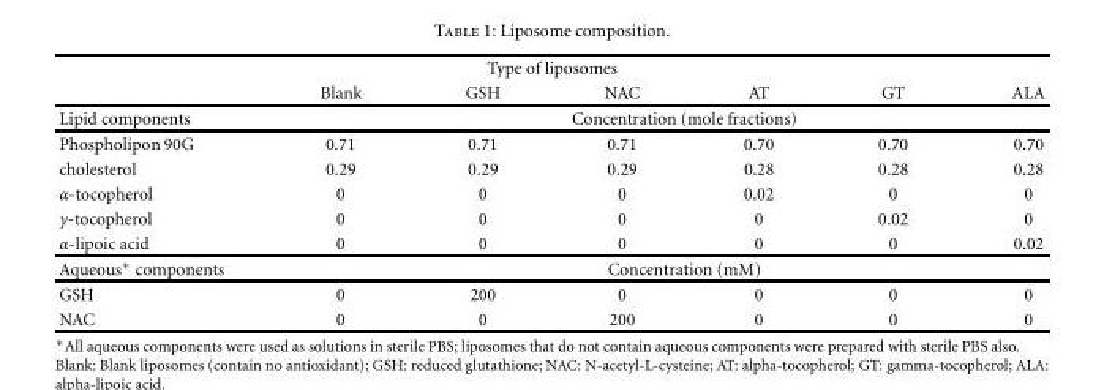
<table><thead><tr><td colspan="7">Type of liposomes</td></tr><tr><td></td><td>Blank</td><td>GSH</td><td>NAC</td><td>AT</td><td>GT</td><td>ALA</td></tr></thead><tbody><tr><td>Lipid components</td><td colspan="6">Concentration (mole fractions)</td></tr><tr><td>Phospholipon 90G</td><td>0.71</td><td>0.71</td><td>0.71</td><td>0.70</td><td>0.70</td><td>0.70</td></tr><tr><td>cholesterol</td><td>0.29</td><td>0.29</td><td>0.29</td><td>0.28</td><td>0.28</td><td>0.28</td></tr><tr><td>α-tocopherol</td><td>0</td><td>0</td><td>0</td><td>0.02</td><td>0</td><td>0</td></tr><tr><td>γ-tocopherol</td><td>0</td><td>0</td><td>0</td><td>0</td><td>0.02</td><td>0</td></tr><tr><td>α-lipoic acid</td><td>0</td><td>0</td><td>0</td><td>0</td><td>0</td><td>0.02</td></tr><tr><td>Aqueous∗ components</td><td colspan="6">Concentration (mM)</td></tr><tr><td>GSH</td><td>0</td><td>200</td><td>0</td><td>0</td><td>0</td><td>0</td></tr><tr><td>NAC</td><td>0</td><td>0</td><td>200</td><td>0</td><td>0</td><td>0</td></tr></tbody></table>